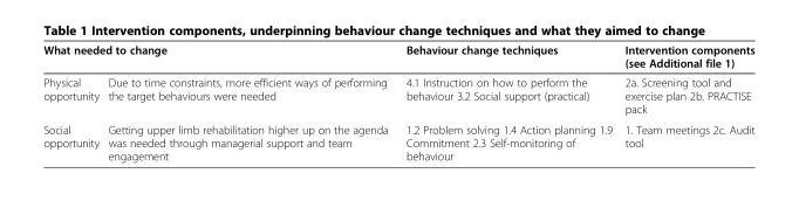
<table><thead><tr><td colspan="2">What needed to change</td><td rowspan="2">Behaviour change techniques 4.1 Instruction on how to perform the behaviour 3.2 Social support (practical)</td><td rowspan="2">Intervention components (see Additional file 1) 2a. Screening tool and exercise plan 2b. PRACTISE pack</td></tr><tr><td>Physical opportunity</td><td>Due to time constraints, more efficient ways of performing the target behaviours were needed</td></tr></thead><tbody><tr><td>Social opportunity</td><td>Getting upper limb rehabilitation higher up on the agenda was needed through managerial support and team engagement</td><td>1.2 Problem solving 1.4 Action planning 1.9 Commitment 2.3 Self-monitoring of behaviour</td><td>1. Team meetings 2c. Audit tool</td></tr></tbody></table>